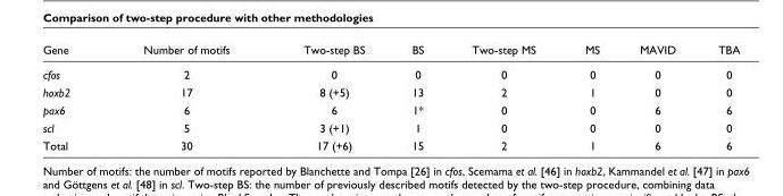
<table><thead><tr><td>Gene</td><td>Number of motifs</td><td>Two-step BS</td><td>BS</td><td>Two-step MS</td><td>MS</td><td>MAVID</td><td>TBA</td></tr></thead><tbody><tr><td>cfos</td><td>2</td><td>0</td><td>0</td><td>0</td><td>0</td><td>0</td><td>0</td></tr><tr><td>hoxb2</td><td>17</td><td>8 (+5)</td><td>13</td><td>2</td><td>1</td><td>0</td><td>0</td></tr><tr><td>pax6</td><td>6</td><td>6</td><td>1*</td><td>0</td><td>0</td><td>6</td><td>6</td></tr><tr><td>scl</td><td>5</td><td>3 (+1)</td><td>1</td><td>0</td><td>0</td><td>0</td><td>0</td></tr><tr><td>Total</td><td>30</td><td>17 (+6)</td><td>15</td><td>2</td><td>1</td><td>6</td><td>6</td></tr></tbody></table>